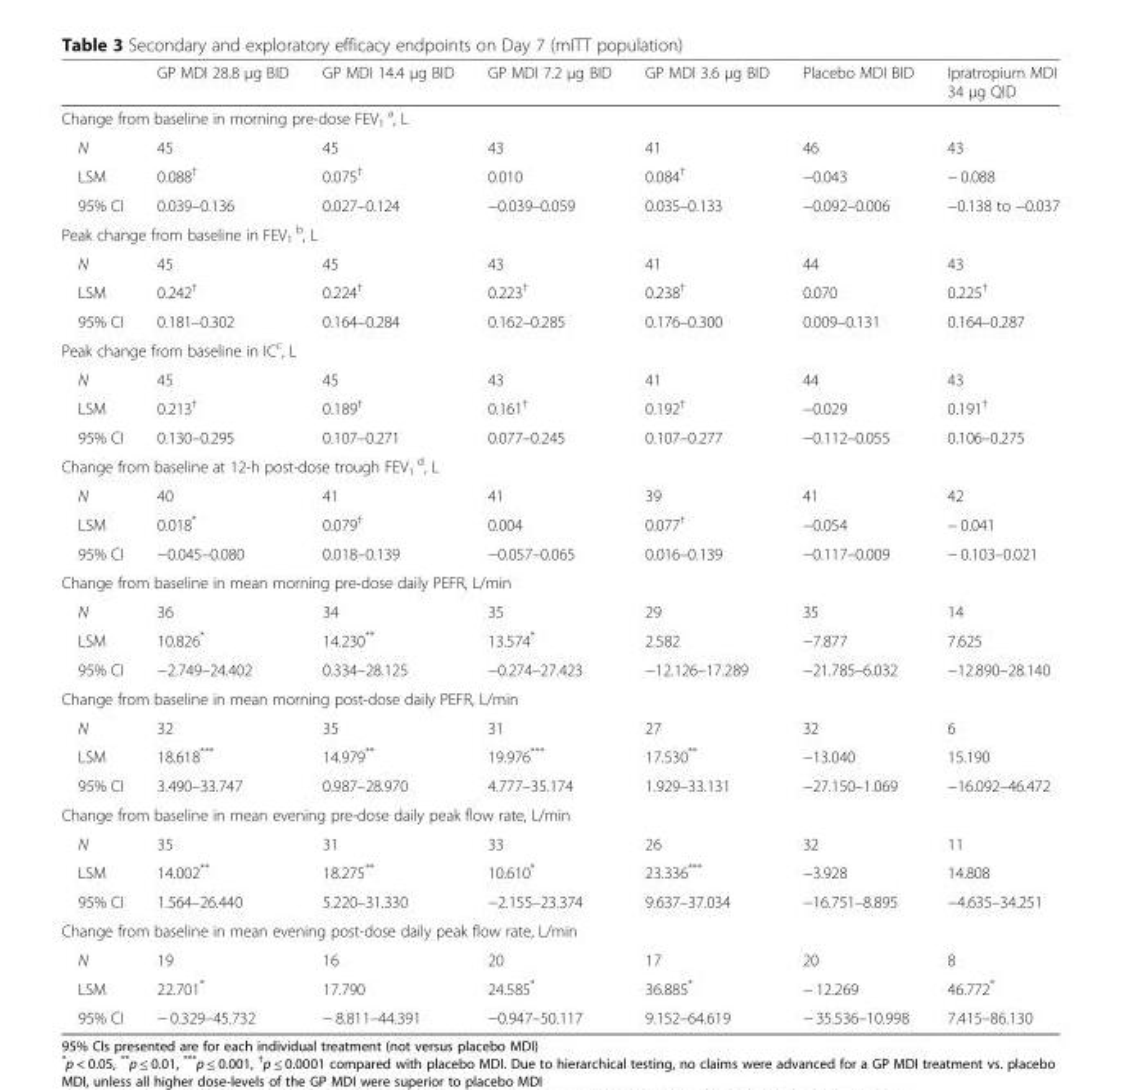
<table><thead><tr><td></td><td>GP MDI 28.8 μg BID</td><td>GP MDI 14.4 μg BID</td><td>GP MDI 7.2 μg BID</td><td>GP MDI 3.6 μg BID</td><td>Placebo MDI BID</td><td>Ipratropium MDI 34 μg QID</td></tr></thead><tbody><tr><td colspan="7">Change from baseline in morning pre-dose FEV<sub>1</sub> <sup>a</sup>, L</td></tr><tr><td>N</td><td>45</td><td>45</td><td>43</td><td>41</td><td>46</td><td>43</td></tr><tr><td>LSM</td><td>0.088<sup>†</sup></td><td>0.075<sup>†</sup></td><td>0.010</td><td>0.084<sup>†</sup></td><td>−0.043</td><td>− 0.088</td></tr><tr><td>95% CI</td><td>0.039–0.136</td><td>0.027–0.124</td><td>−0.039–0.059</td><td>0.035–0.133</td><td>−0.092–0.006</td><td>−0.138 to −0.037</td></tr><tr><td colspan="7">Peak change from baseline in FEV<sub>1</sub> <sup>b</sup>, L</td></tr><tr><td>N</td><td>45</td><td>45</td><td>43</td><td>41</td><td>44</td><td>43</td></tr><tr><td>LSM</td><td>0.242<sup>†</sup></td><td>0.224<sup>†</sup></td><td>0.223<sup>†</sup></td><td>0.238<sup>†</sup></td><td>0.070</td><td>0.225<sup>†</sup></td></tr><tr><td>95% CI</td><td>0.181–0.302</td><td>0.164–0.284</td><td>0.162–0.285</td><td>0.176–0.300</td><td>0.009–0.131</td><td>0.164–0.287</td></tr><tr><td colspan="7">Peak change from baseline in IC<sup>c</sup>, L</td></tr><tr><td>N</td><td>45</td><td>45</td><td>43</td><td>41</td><td>44</td><td>43</td></tr><tr><td>LSM</td><td>0.213<sup>†</sup></td><td>0.189<sup>†</sup></td><td>0.161<sup>†</sup></td><td>0.192<sup>†</sup></td><td>−0.029</td><td>0.191<sup>†</sup></td></tr><tr><td>95% CI</td><td>0.130–0.295</td><td>0.107–0.271</td><td>0.077–0.245</td><td>0.107–0.277</td><td>−0.112–0.055</td><td>0.106–0.275</td></tr><tr><td colspan="7">Change from baseline at 12-h post-dose trough FEV<sub>1</sub> <sup>d</sup>, L</td></tr><tr><td>N</td><td>40</td><td>41</td><td>41</td><td>39</td><td>41</td><td>42</td></tr><tr><td>LSM</td><td>0.018*</td><td>0.079<sup>†</sup></td><td>0.004</td><td>0.077<sup>†</sup></td><td>−0.054</td><td>− 0.041</td></tr><tr><td>95% CI</td><td>−0.045–0.080</td><td>0.018–0.139</td><td>−0.057–0.065</td><td>0.016–0.139</td><td>−0.117–0.009</td><td>− 0.103–0.021</td></tr><tr><td colspan="7">Change from baseline in mean morning pre-dose daily PEFR, L/min</td></tr><tr><td>N</td><td>36</td><td>34</td><td>35</td><td>29</td><td>35</td><td>14</td></tr><tr><td>LSM</td><td>10.826*</td><td>14.230**</td><td>13.574*</td><td>2.582</td><td>−7.877</td><td>7.625</td></tr><tr><td>95% CI</td><td>−2.749–24.402</td><td>0.334–28.125</td><td>−0.274–27.423</td><td>−12.126–17.289</td><td>−21.785–6.032</td><td>−12.890–28.140</td></tr><tr><td colspan="7">Change from baseline in mean morning post-dose daily PEFR, L/min</td></tr><tr><td>N</td><td>32</td><td>35</td><td>31</td><td>27</td><td>32</td><td>6</td></tr><tr><td>LSM</td><td>18.618***</td><td>14.979**</td><td>19.976***</td><td>17.530**</td><td>−13.040</td><td>15.190</td></tr><tr><td>95% CI</td><td>3.490–33.747</td><td>0.987–28.970</td><td>4.777–35.174</td><td>1.929–33.131</td><td>−27.150–1.069</td><td>−16.092–46.472</td></tr><tr><td colspan="7">Change from baseline in mean evening pre-dose daily peak flow rate, L/min</td></tr><tr><td>N</td><td>35</td><td>31</td><td>33</td><td>26</td><td>32</td><td>11</td></tr><tr><td>LSM</td><td>14.002**</td><td>18.275**</td><td>10.610*</td><td>23.336***</td><td>−3.928</td><td>14.808</td></tr><tr><td>95% CI</td><td>1.564–26.440</td><td>5.220–31.330</td><td>−2.155–23.374</td><td>9.637–37.034</td><td>−16.751–8.895</td><td>−4.635–34.251</td></tr><tr><td colspan="7">Change from baseline in mean evening post-dose daily peak flow rate, L/min</td></tr><tr><td>N</td><td>19</td><td>16</td><td>20</td><td>17</td><td>20</td><td>8</td></tr><tr><td>LSM</td><td>22.701*</td><td>17.790</td><td>24.585*</td><td>36.885*</td><td>− 12.269</td><td>46.772*</td></tr><tr><td>95% CI</td><td>− 0.329–45.732</td><td>− 8.811–44.391</td><td>−0.947–50.117</td><td>9.152–64.619</td><td>− 35.536–10.998</td><td>7.415–86.130</td></tr></tbody></table>